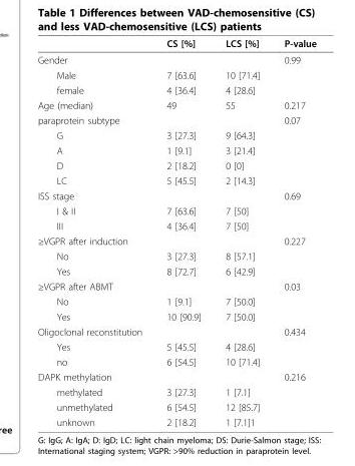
<table><thead><tr><td></td><td>CS [%]</td><td>LCS [%]</td><td>P-value</td></tr></thead><tbody><tr><td>Gender</td><td></td><td></td><td>0.99</td></tr><tr><td>Male</td><td>7 [63.6]</td><td>10 [71.4]</td><td></td></tr><tr><td>female</td><td>4 [36.4]</td><td>4 [28.6]</td><td></td></tr><tr><td>Age (median)</td><td>49</td><td>55</td><td>0.217</td></tr><tr><td>paraprotein subtype</td><td></td><td></td><td>0.07</td></tr><tr><td>G</td><td>3 [27.3]</td><td>9 [64.3]</td><td></td></tr><tr><td>A</td><td>1 [9.1]</td><td>3 [21.4]</td><td></td></tr><tr><td>D</td><td>2 [18.2]</td><td>0 [0]</td><td></td></tr><tr><td>LC</td><td>5 [45.5]</td><td>2 [14.3]</td><td></td></tr><tr><td>ISS stage</td><td></td><td></td><td>0.69</td></tr><tr><td>I &amp; II</td><td>7 [63.6]</td><td>7 [50]</td><td></td></tr><tr><td>III</td><td>4 [36.4]</td><td>7 [50]</td><td></td></tr><tr><td>≥VGPR after induction</td><td></td><td></td><td>0.227</td></tr><tr><td>No</td><td>3 [27.3]</td><td>8 [57.1]</td><td></td></tr><tr><td>Yes</td><td>8 [72.7]</td><td>6 [42.9]</td><td></td></tr><tr><td>≥VGPR after ABMT</td><td></td><td></td><td>0.03</td></tr><tr><td>No</td><td>1 [9.1]</td><td>7 [50.0]</td><td></td></tr><tr><td>Yes</td><td>10 [90.9]</td><td>7 [50.0]</td><td></td></tr><tr><td>Oligoclonal reconstitution</td><td></td><td></td><td>0.434</td></tr><tr><td>Yes</td><td>5 [45.5]</td><td>4 [28.6]</td><td></td></tr><tr><td>no</td><td>6 [54.5]</td><td>10 [71.4]</td><td></td></tr><tr><td>DAPK methylation</td><td></td><td></td><td>0.216</td></tr><tr><td>methylated</td><td>3 [27.3]</td><td>1 [7.1]</td><td></td></tr><tr><td>unmethylated</td><td>6 [54.5]</td><td>12 [85.7]</td><td></td></tr><tr><td>unknown</td><td>2 [18.2]</td><td>1 [7.1]1</td><td></td></tr></tbody></table>